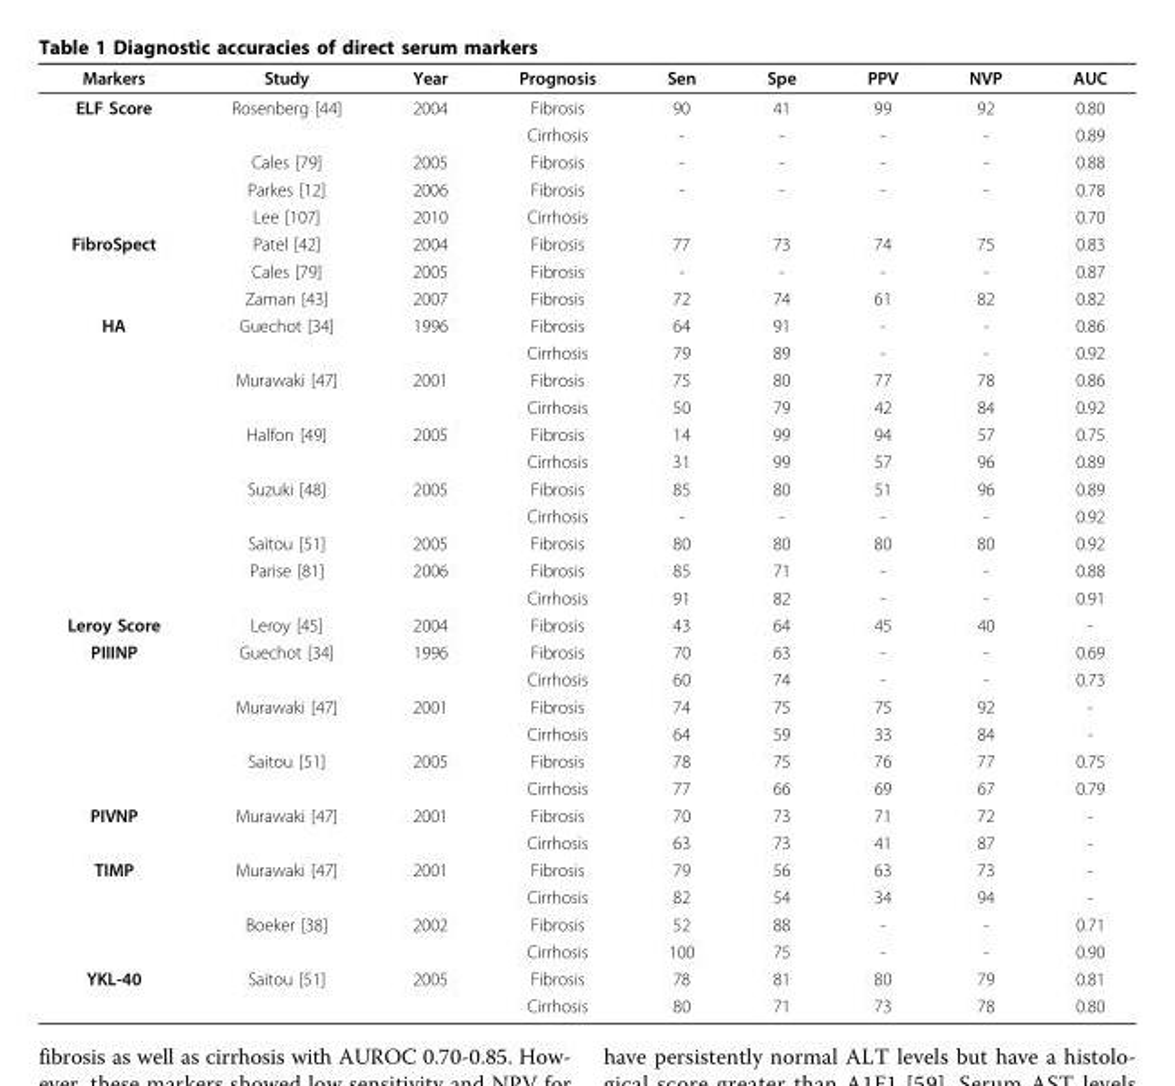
<table><thead><tr><td>Markers</td><td>Study</td><td>Year</td><td>Prognosis</td><td>Sen</td><td>Spe</td><td>PPV</td><td>NVP</td><td>AUC</td></tr></thead><tbody><tr><td rowspan="5">ELF Score</td><td>Rosenberg [44]</td><td>2004</td><td>Fibrosis</td><td>90</td><td>41</td><td>99</td><td>92</td><td>0.80</td></tr><tr><td></td><td></td><td>Cirrhosis</td><td>-</td><td>-</td><td>-</td><td>-</td><td>0.89</td></tr><tr><td>Cales [79]</td><td>2005</td><td>Fibrosis</td><td>-</td><td>-</td><td>-</td><td>-</td><td>0.88</td></tr><tr><td>Parkes [12]</td><td>2006</td><td>Fibrosis</td><td>-</td><td>-</td><td>-</td><td>-</td><td>0.78</td></tr><tr><td>Lee [107]</td><td>2010</td><td>Cirrhosis</td><td></td><td></td><td></td><td></td><td>0.70</td></tr><tr><td rowspan="3">FibroSpect</td><td>Patel [42]</td><td>2004</td><td>Fibrosis</td><td>77</td><td>73</td><td>74</td><td>75</td><td>0.83</td></tr><tr><td>Cales [79]</td><td>2005</td><td>Fibrosis</td><td>-</td><td>-</td><td>-</td><td>-</td><td>0.87</td></tr><tr><td>Zaman [43]</td><td>2007</td><td>Fibrosis</td><td>72</td><td>74</td><td>61</td><td>82</td><td>0.82</td></tr><tr><td rowspan="11">HA</td><td>Guechot [34]</td><td>1996</td><td>Fibrosis</td><td>64</td><td>91</td><td>-</td><td>-</td><td>0.86</td></tr><tr><td></td><td></td><td>Cirrhosis</td><td>79</td><td>89</td><td>-</td><td>-</td><td>0.92</td></tr><tr><td>Murawaki [47]</td><td>2001</td><td>Fibrosis</td><td>75</td><td>80</td><td>77</td><td>78</td><td>0.86</td></tr><tr><td></td><td></td><td>Cirrhosis</td><td>50</td><td>79</td><td>42</td><td>84</td><td>0.92</td></tr><tr><td>Halfon [49]</td><td>2005</td><td>Fibrosis</td><td>14</td><td>99</td><td>94</td><td>57</td><td>0.75</td></tr><tr><td></td><td></td><td>Cirrhosis</td><td>31</td><td>99</td><td>57</td><td>96</td><td>0.89</td></tr><tr><td>Suzuki [48]</td><td>2005</td><td>Fibrosis</td><td>85</td><td>80</td><td>51</td><td>96</td><td>0.89</td></tr><tr><td></td><td></td><td>Cirrhosis</td><td>-</td><td>-</td><td>-</td><td>-</td><td>0.92</td></tr><tr><td>Saitou [51]</td><td>2005</td><td>Fibrosis</td><td>80</td><td>80</td><td>80</td><td>80</td><td>0.92</td></tr><tr><td>Parise [81]</td><td>2006</td><td>Fibrosis</td><td>85</td><td>71</td><td>-</td><td>-</td><td>0.88</td></tr><tr><td></td><td></td><td>Cirrhosis</td><td>91</td><td>82</td><td>-</td><td>-</td><td>0.91</td></tr><tr><td>Leroy Score</td><td>Leroy [45]</td><td>2004</td><td>Fibrosis</td><td>43</td><td>64</td><td>45</td><td>40</td><td>-</td></tr><tr><td rowspan="6">PIIINP</td><td>Guechot [34]</td><td>1996</td><td>Fibrosis</td><td>70</td><td>63</td><td>-</td><td>-</td><td>0.69</td></tr><tr><td></td><td></td><td>Cirrhosis</td><td>60</td><td>74</td><td>-</td><td>-</td><td>0.73</td></tr><tr><td>Murawaki [47]</td><td>2001</td><td>Fibrosis</td><td>74</td><td>75</td><td>75</td><td>92</td><td>-</td></tr><tr><td></td><td></td><td>Cirrhosis</td><td>64</td><td>59</td><td>33</td><td>84</td><td>-</td></tr><tr><td>Saitou [51]</td><td>2005</td><td>Fibrosis</td><td>78</td><td>75</td><td>76</td><td>77</td><td>0.75</td></tr><tr><td></td><td></td><td>Cirrhosis</td><td>77</td><td>66</td><td>69</td><td>67</td><td>0.79</td></tr><tr><td rowspan="2">PIVNP</td><td>Murawaki [47]</td><td>2001</td><td>Fibrosis</td><td>70</td><td>73</td><td>71</td><td>72</td><td>-</td></tr><tr><td></td><td></td><td>Cirrhosis</td><td>63</td><td>73</td><td>41</td><td>87</td><td>-</td></tr><tr><td rowspan="4">TIMP</td><td>Murawaki [47]</td><td>2001</td><td>Fibrosis</td><td>79</td><td>56</td><td>63</td><td>73</td><td>-</td></tr><tr><td></td><td></td><td>Cirrhosis</td><td>82</td><td>54</td><td>34</td><td>94</td><td>-</td></tr><tr><td>Boeker [38]</td><td>2002</td><td>Fibrosis</td><td>52</td><td>88</td><td>-</td><td>-</td><td>0.71</td></tr><tr><td></td><td></td><td>Cirrhosis</td><td>100</td><td>75</td><td>-</td><td>-</td><td>0.90</td></tr><tr><td rowspan="2">YKL-40</td><td>Saitou [51]</td><td>2005</td><td>Fibrosis</td><td>78</td><td>81</td><td>80</td><td>79</td><td>0.81</td></tr><tr><td></td><td></td><td>Cirrhosis</td><td>80</td><td>71</td><td>73</td><td>78</td><td>0.80</td></tr></tbody></table>